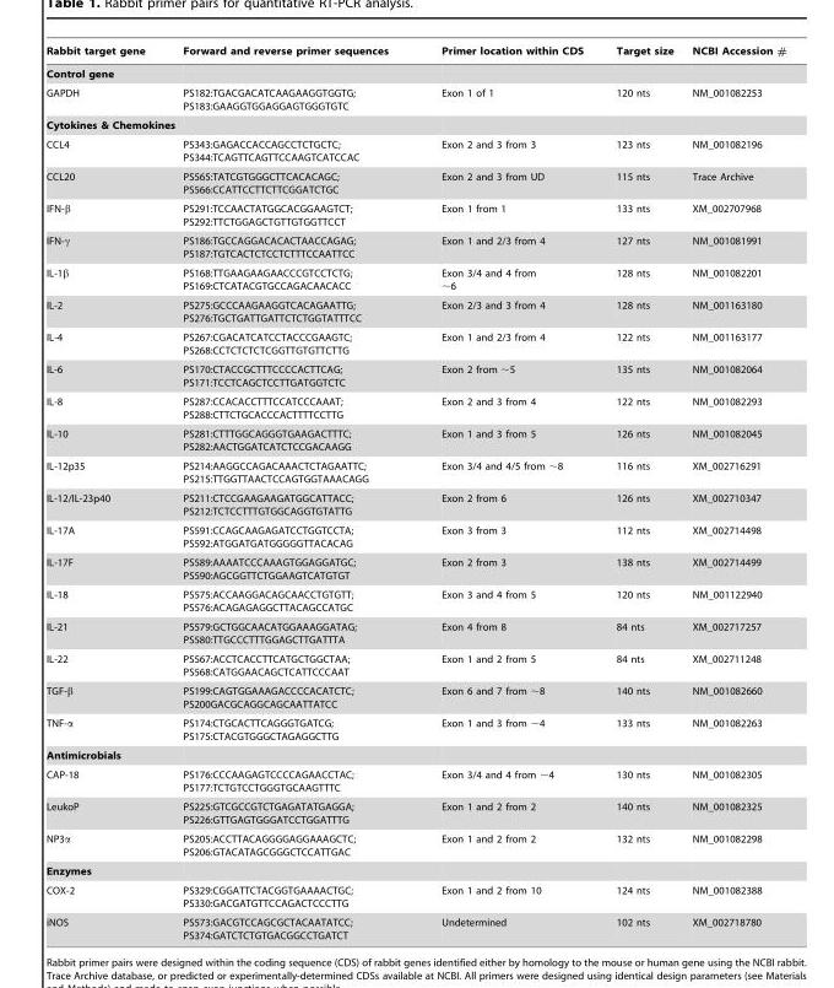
<table><thead><tr><td>Rabbit target gene</td><td>Forward and reverse primer sequences</td><td>Primer location within CDS</td><td>Target size</td><td>NCBI Accession #</td></tr></thead><tbody><tr><td colspan="5">Control gene</td></tr><tr><td>GAPDH</td><td>PS182:TGACGACATCAAGAAGGTGGTG; PS183:GAAGGTGGAGGAGTGGGTGTC</td><td>Exon 1 of 1</td><td>120 nts</td><td>NM_001082253</td></tr><tr><td colspan="5">Cytokines &amp; Chemokines</td></tr><tr><td>CCL4</td><td>PS343:GAGACCACCAGCCTCTGCTC; PS344:TCAGTTCAGTTCCAAGTCATCCAC</td><td>Exon 2 and 3 from 3</td><td>123 nts</td><td>NM_001082196</td></tr><tr><td>CCL20</td><td>PS565:TATCGTGGGCTTCACACAGC; PS566:CCATTCCTTCTTCGGATCTGC</td><td>Exon 2 and 3 from UD</td><td>115 nts</td><td>Trace Archive</td></tr><tr><td>IFN-β</td><td>PS291:TCCAACTATGGCACGGAAGTCT; PS292:TTCTGGAGCTGTTGTGGTTCCT</td><td>Exon 1 from 1</td><td>133 nts</td><td>XM_002707968</td></tr><tr><td>IFN-γ</td><td>PS186:TGCCAGGACACACTAACCAGAG; PS187:TGTCACTCTCCTCTTTCCAATTCC</td><td>Exon 1 and 2/3 from 4</td><td>127 nts</td><td>NM_001081991</td></tr><tr><td>IL-1β</td><td>PS168:TTGAAGAAGAACCCGTCCTCTG; PS169:CTCATACGTGCCAGACAACACC</td><td>Exon 3/4 and 4 from ∼6</td><td>128 nts</td><td>NM_001082201</td></tr><tr><td>IL-2</td><td>PS275:GCCCAAGAAGGTCACAGAATTG; PS276:TGCTGATTGATTCTCTGGTATTTCC</td><td>Exon 2/3 and 3 from 4</td><td>128 nts</td><td>NM_001163180</td></tr><tr><td>IL-4</td><td>PS267:CGACATCATCCTACCCGAAGTC; PS268:CCTCTCTCTCGGTTGTGTTCTTG</td><td>Exon 1 and 2/3 from 4</td><td>122 nts</td><td>NM_001163177</td></tr><tr><td>IL-6</td><td>PS170:CTACCGCTTTCCCCACTTCAG; PS171:TCCTCAGCTCCTTGATGGTCTC</td><td>Exon 2 from ∼5</td><td>135 nts</td><td>NM_001082064</td></tr><tr><td>IL-8</td><td>PS287:CCACACCTTTCCATCCCAAAT; PS288:CTTCTGCACCCACTTTTCCTTG</td><td>Exon 2 and 3 from 4</td><td>122 nts</td><td>NM_001082293</td></tr><tr><td>IL-10</td><td>PS281:CTTTGGCAGGGTGAAGACTTTC; PS282:AACTGGATCATCTCCGACAAGG</td><td>Exon 1 and 3 from 5</td><td>126 nts</td><td>NM_001082045</td></tr><tr><td>IL-12p35</td><td>PS214:AAGGCCAGACAAACTCTAGAATTC; PS215:TTGGTTAACTCCAGTGGTAAACAGG</td><td>Exon 3/4 and 4/5 from ∼8</td><td>116 nts</td><td>XM_002716291</td></tr><tr><td>IL-12/IL-23p40</td><td>PS211:CTCCGAAGAAGATGGCATTACC; PS212:TCTCCTTTGTGGCAGGTGTATTG</td><td>Exon 2 from 6</td><td>126 nts</td><td>XM_002710347</td></tr><tr><td>IL-17A</td><td>PS591:CCAGCAAGAGATCCTGGTCCTA; PS592:ATGGATGATGGGGGTTACACAG</td><td>Exon 3 from 3</td><td>112 nts</td><td>XM_002714498</td></tr><tr><td>IL-17F</td><td>PS589:AAAATCCCAAAGTGGAGGATGC; PS590:AGCGGTTCTGGAAGTCATGTGT</td><td>Exon 2 from 3</td><td>138 nts</td><td>XM_002714499</td></tr><tr><td>IL-18</td><td>PS575:ACCAAGGACAGCAACCTGTGTT; PS576:ACAGAGAGGCTTACAGCCATGC</td><td>Exon 3 and 4 from 5</td><td>120 nts</td><td>NM_001122940</td></tr><tr><td>IL-21</td><td>PS579:GCTGGCAACATGGAAAGGATAG; PS580:TTGCCCTTTGGAGCTTGATTTA</td><td>Exon 4 from 8</td><td>84 nts</td><td>XM_002717257</td></tr><tr><td>IL-22</td><td>PS567:ACCTCACCTTCATGCTGGCTAA; PS568:CATGGAACAGCTCATTCCCAAT</td><td>Exon 1 and 2 from 5</td><td>84 nts</td><td>XM_002711248</td></tr><tr><td>TGF-β</td><td>PS199:CAGTGGAAAGACCCCACATCTC; PS200GACGCAGGCAGCAATTATCC</td><td>Exon 6 and 7 from ∼8</td><td>140 nts</td><td>NM_001082660</td></tr><tr><td>TNF-α</td><td>PS174:CTGCACTTCAGGGTGATCG; PS175:CTACGTGGGCTAGAGGCTTG</td><td>Exon 1 and 3 from ∼4</td><td>133 nts</td><td>NM_001082263</td></tr><tr><td colspan="5">Antimicrobials</td></tr><tr><td>CAP-18</td><td>PS176:CCCAAGAGTCCCCAGAACCTAC; PS177:TCTGTCCTGGGTGCAAGTTTC</td><td>Exon 3/4 and 4 from ∼4</td><td>130 nts</td><td>NM_001082305</td></tr><tr><td>LeukoP</td><td>PS225:GTCGCCGTCTGAGATATGAGGA; PS226:GTTGAGTGGGATCCTGGATTTG</td><td>Exon 1 and 2 from 2</td><td>140 nts</td><td>NM_001082325</td></tr><tr><td>NP3α</td><td>PS205:ACCTTACAGGGGAGGAAAGCTC; PS206:GTACATAGCGGGCTCCATTGAC</td><td>Exon 1 and 2 from 2</td><td>132 nts</td><td>NM_001082298</td></tr><tr><td colspan="5">Enzymes</td></tr><tr><td>COX-2</td><td>PS329:CGGATTCTACGGTGAAAACTGC; PS330:GACGATGTTCCAGACTCCCTTG</td><td>Exon 1 and 2 from 10</td><td>124 nts</td><td>NM_001082388</td></tr><tr><td>iNOS</td><td>PS573:GACGTCCAGCGCTACAATATCC; PS374:GATCTCTGTGACGGCCTGATCT</td><td>Undetermined</td><td>102 nts</td><td>XM_002718780</td></tr></tbody></table>